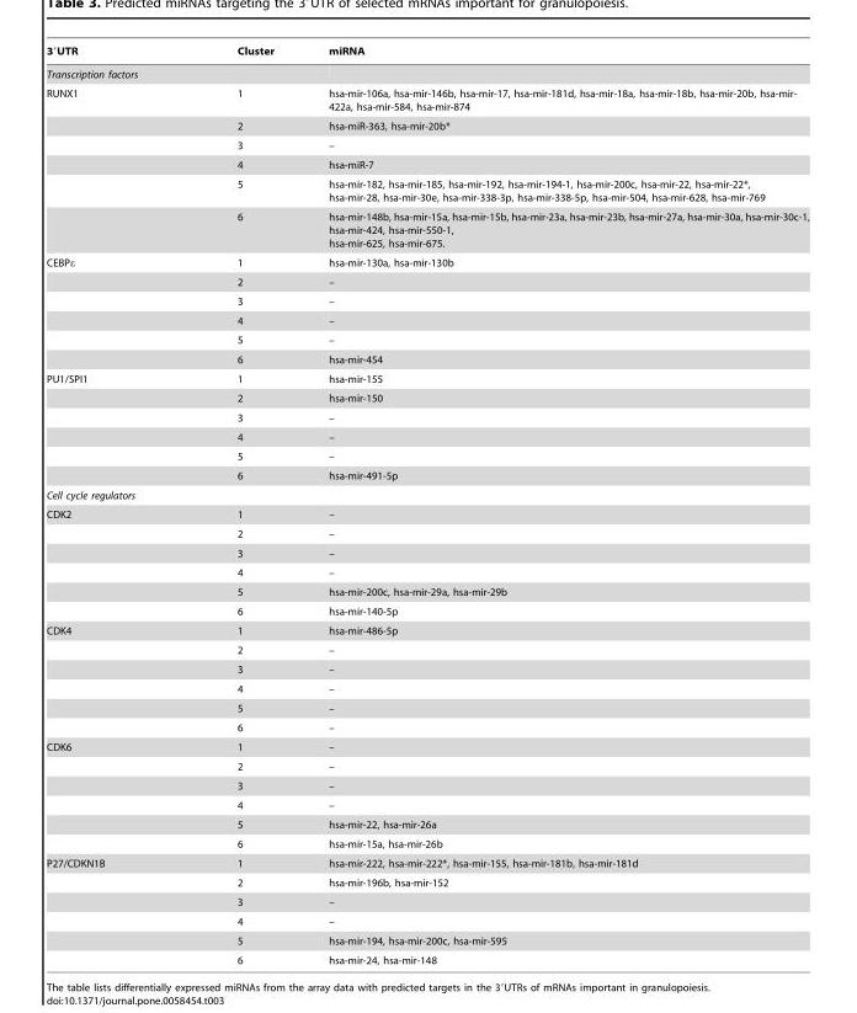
<table><thead><tr><td>3′UTR</td><td>Cluster</td><td>miRNA</td></tr></thead><tbody><tr><td colspan="3">Transcription factors</td></tr><tr><td rowspan="6">RUNX1</td><td>1</td><td>hsa-mir-106a, hsa-mir-146b, hsa-mir-17, hsa-mir-181d, hsa-mir-18a, hsa-mir-18b, hsa-mir-20b, hsa-mir- 422a, hsa-mir-584, hsa-mir-874</td></tr><tr><td>2</td><td>hsa-miR-363, hsa-mir-20b*</td></tr><tr><td>3</td><td>–</td></tr><tr><td>4</td><td>hsa-miR-7</td></tr><tr><td>5</td><td>hsa-mir-182, hsa-mir-185, hsa-mir-192, hsa-mir-194-1, hsa-mir-200c, hsa-mir-22, hsa-mir-22*, hsa-mir-28, hsa-mir-30e, hsa-mir-338-3p, hsa-mir-338-5p, hsa-mir-504, hsa-mir-628, hsa-mir-769</td></tr><tr><td>6</td><td>hsa-mir-148b, hsa-mir-15a, hsa-mir-15b, hsa-mir-23a, hsa-mir-23b, hsa-mir-27a, hsa-mir-30a, hsa-mir-30c-1, hsa-mir-424, hsa-mir-550-1, hsa-mir-625, hsa-mir-675.</td></tr><tr><td rowspan="6">CEBPε</td><td>1</td><td>hsa-mir-130a, hsa-mir-130b</td></tr><tr><td>2</td><td>–</td></tr><tr><td>3</td><td>–</td></tr><tr><td>4</td><td>–</td></tr><tr><td>5</td><td>–</td></tr><tr><td>6</td><td>hsa-mir-454</td></tr><tr><td rowspan="6">PU1/SPI1</td><td>1</td><td>hsa-mir-155</td></tr><tr><td>2</td><td>hsa-mir-150</td></tr><tr><td>3</td><td>–</td></tr><tr><td>4</td><td>–</td></tr><tr><td>5</td><td>–</td></tr><tr><td>6</td><td>hsa-mir-491-5p</td></tr><tr><td colspan="3">Cell cycle regulators</td></tr><tr><td rowspan="6">CDK2</td><td>1</td><td>–</td></tr><tr><td>2</td><td>–</td></tr><tr><td>3</td><td>–</td></tr><tr><td>4</td><td>–</td></tr><tr><td>5</td><td>hsa-mir-200c, hsa-mir-29a, hsa-mir-29b</td></tr><tr><td>6</td><td>hsa-mir-140-5p</td></tr><tr><td rowspan="6">CDK4</td><td>1</td><td>hsa-mir-486-5p</td></tr><tr><td>2</td><td>–</td></tr><tr><td>3</td><td>–</td></tr><tr><td>4</td><td>–</td></tr><tr><td>5</td><td>–</td></tr><tr><td>6</td><td>–</td></tr><tr><td rowspan="6">CDK6</td><td>1</td><td>–</td></tr><tr><td>2</td><td>–</td></tr><tr><td>3</td><td>–</td></tr><tr><td>4</td><td>–</td></tr><tr><td>5</td><td>hsa-mir-22, hsa-mir-26a</td></tr><tr><td>6</td><td>hsa-mir-15a, hsa-mir-26b</td></tr><tr><td rowspan="6">P27/CDKN1B</td><td>1</td><td>hsa-mir-222, hsa-mir-222*, hsa-mir-155, hsa-mir-181b, hsa-mir-181d</td></tr><tr><td>2</td><td>hsa-mir-196b, hsa-mir-152</td></tr><tr><td>3</td><td>–</td></tr><tr><td>4</td><td>–</td></tr><tr><td>5</td><td>hsa-mir-194, hsa-mir-200c, hsa-mir-595</td></tr><tr><td>6</td><td>hsa-mir-24, hsa-mir-148</td></tr></tbody></table>